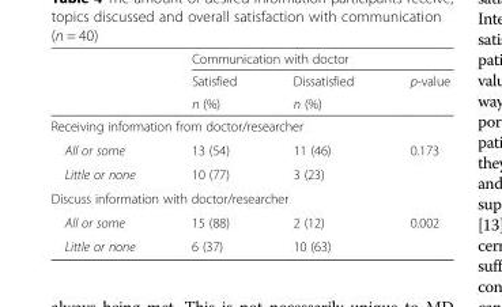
<table><thead><tr><td rowspan="3"></td><td colspan="3">Communication with doctor</td></tr><tr><td rowspan="2">Satisfied n (%)</td><td rowspan="2">Dissatisfied n (%)</td><td rowspan="2">p-value</td></tr><tr></tr></thead><tbody><tr><td colspan="4">Receiving information from doctor/researcher</td></tr><tr><td>All or some</td><td>13 (54)</td><td>11 (46)</td><td>0.173</td></tr><tr><td>Little or none</td><td>10 (77)</td><td>3 (23)</td><td></td></tr><tr><td colspan="4">Discuss information with doctor/researcher</td></tr><tr><td>All or some</td><td>15 (88)</td><td>2 (12)</td><td>0.002</td></tr><tr><td>Little or none</td><td>6 (37)</td><td>10 (63)</td><td></td></tr></tbody></table>